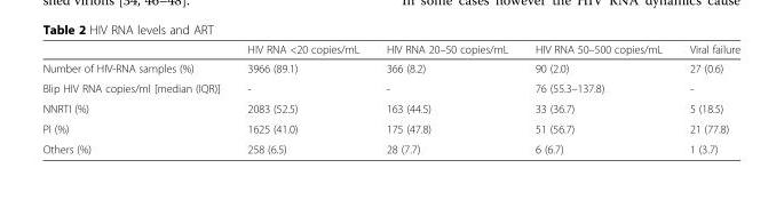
<table><thead><tr><td></td><td>HIV RNA &lt;20 copies/mL</td><td>HIV RNA 20–50 copies/mL</td><td>HIV RNA 50–500 copies/mL</td><td>Viral failure</td></tr></thead><tbody><tr><td>Number of HIV-RNA samples (%)</td><td>3966 (89.1)</td><td>366 (8.2)</td><td>90 (2.0)</td><td>27 (0.6)</td></tr><tr><td>Blip HIV RNA copies/ml [median (IQR)]</td><td>-</td><td>-</td><td>76 (55.3–137.8)</td><td>-</td></tr><tr><td>NNRTI (%)</td><td>2083 (52.5)</td><td>163 (44.5)</td><td>33 (36.7)</td><td>5 (18.5)</td></tr><tr><td>PI (%)</td><td>1625 (41.0)</td><td>175 (47.8)</td><td>51 (56.7)</td><td>21 (77.8)</td></tr><tr><td>Others (%)</td><td>258 (6.5)</td><td>28 (7.7)</td><td>6 (6.7)</td><td>1 (3.7)</td></tr></tbody></table>